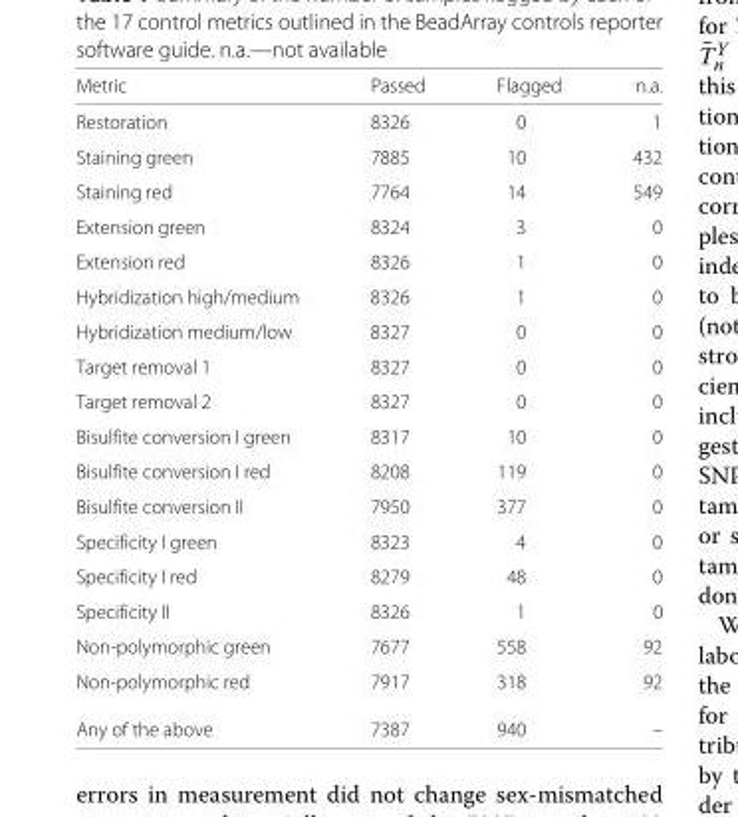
<table><thead><tr><td>Metric</td><td>Passed</td><td>Flagged</td><td>n.a.</td></tr></thead><tbody><tr><td>Restoration</td><td>8326</td><td>0</td><td>1</td></tr><tr><td>Staining green</td><td>7885</td><td>10</td><td>432</td></tr><tr><td>Staining red</td><td>7764</td><td>14</td><td>549</td></tr><tr><td>Extension green</td><td>8324</td><td>3</td><td>0</td></tr><tr><td>Extension red</td><td>8326</td><td>1</td><td>0</td></tr><tr><td>Hybridization high/medium</td><td>8326</td><td>1</td><td>0</td></tr><tr><td>Hybridization medium/low</td><td>8327</td><td>0</td><td>0</td></tr><tr><td>Target removal 1</td><td>8327</td><td>0</td><td>0</td></tr><tr><td>Target removal 2</td><td>8327</td><td>0</td><td>0</td></tr><tr><td>Bisulfite conversion I green</td><td>8317</td><td>10</td><td>0</td></tr><tr><td>Bisulfite conversion I red</td><td>8208</td><td>119</td><td>0</td></tr><tr><td>Bisulfite conversion II</td><td>7950</td><td>377</td><td>0</td></tr><tr><td>Specificity I green</td><td>8323</td><td>4</td><td>0</td></tr><tr><td>Specificity I red</td><td>8279</td><td>48</td><td>0</td></tr><tr><td>Specificity II</td><td>8326</td><td>1</td><td>0</td></tr><tr><td>Non-polymorphic green</td><td>7677</td><td>558</td><td>92</td></tr><tr><td>Non-polymorphic red</td><td>7917</td><td>318</td><td>92</td></tr><tr><td>Any of the above</td><td>7387</td><td>940</td><td>–</td></tr></tbody></table>